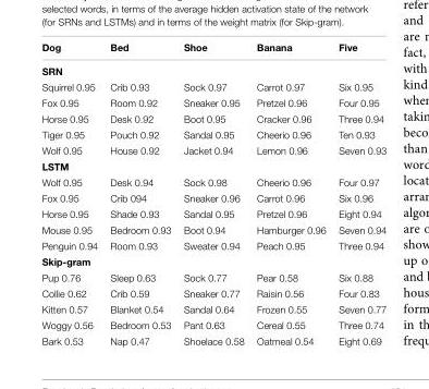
<table><thead><tr><td>Dog</td><td>Bed</td><td>Shoe</td><td>Banana</td><td>Five</td></tr></thead><tbody><tr><td colspan="5">SRN</td></tr><tr><td>Squirrel 0.95</td><td>Crib 0.93</td><td>Sock 0.97</td><td>Carrot 0.97</td><td>Six 0.95</td></tr><tr><td>Fox 0.95</td><td>Room 0.92</td><td>Sneaker 0.95</td><td>Pretzel 0.96</td><td>Four 0.95</td></tr><tr><td>Horse 0.95</td><td>Desk 0.92</td><td>Boot 0.95</td><td>Cracker 0.96</td><td>Three 0.94</td></tr><tr><td>Tiger 0.95</td><td>Pouch 0.92</td><td>Sandal 0.95</td><td>Cheerio 0.96</td><td>Ten 0.93</td></tr><tr><td>Wolf 0.95</td><td>House 0.92</td><td>Jacket 0.94</td><td>Lemon 0.96</td><td>Seven 0.93</td></tr><tr><td colspan="5">LSTM</td></tr><tr><td>Wolf 0.95</td><td>Desk 0.94</td><td>Sock 0.98</td><td>Cheerio 0.96</td><td>Four 0.97</td></tr><tr><td>Fox 0.95</td><td>Crib 094</td><td>Sneaker 0.96</td><td>Carrot 0.96</td><td>Six 0.96</td></tr><tr><td>Horse 0.95</td><td>Shade 0.93</td><td>Sandal 0.95</td><td>Pretzel 0.96</td><td>Eight 0.94</td></tr><tr><td>Mouse 0.95</td><td>Bedroom 0.93</td><td>Boot 0.94</td><td>Hamburger 0.96</td><td>Seven 0.94</td></tr><tr><td>Penguin 0.94</td><td>Room 0.93</td><td>Sweater 0.94</td><td>Peach 0.95</td><td>Three 0.94</td></tr><tr><td colspan="5">Skip-gram</td></tr><tr><td>Pup 0.76</td><td>Sleep 0.63</td><td>Sock 0.77</td><td>Pear 0.58</td><td>Six 0.88</td></tr><tr><td>Collie 0.62</td><td>Crib 0.59</td><td>Sneaker 0.77</td><td>Raisin 0.56</td><td>Four 0.83</td></tr><tr><td>Kitten 0.57</td><td>Blanket 0.54</td><td>Sandal 0.64</td><td>Frozen 0.55</td><td>Seven 0.77</td></tr><tr><td>Woggy 0.56</td><td>Bedroom 0.53</td><td>Pant 0.63</td><td>Cereal 0.55</td><td>Three 0.74</td></tr><tr><td>Bark 0.53</td><td>Nap 0.47</td><td>Shoelace 0.58</td><td>Oatmeal 0.54</td><td>Eight 0.69</td></tr></tbody></table>